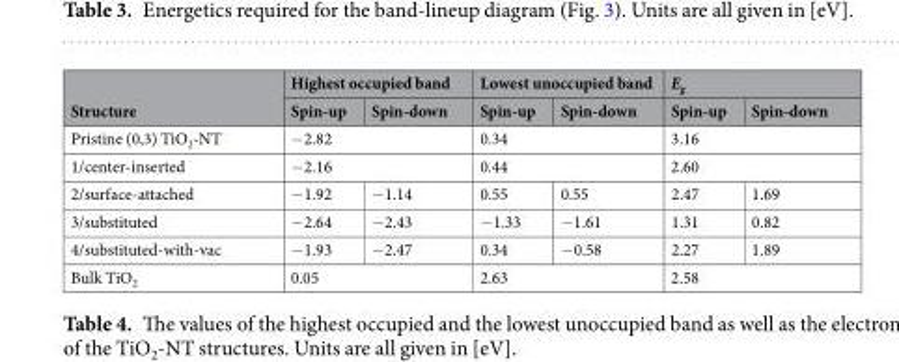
<table><thead><tr><td rowspan="2">Structure</td><td colspan="2">Highest occupied band</td><td colspan="2">Lowest unoccupied band</td><td colspan="2">E<sub>g</sub></td></tr><tr><td>Spin-up</td><td>Spin-down</td><td>Spin-up</td><td>Spin-down</td><td>Spin-up</td><td>Spin-down</td></tr></thead><tbody><tr><td>Pristine (0,3) TiO<sub>2</sub>-NT</td><td colspan="2">−2.82</td><td colspan="2">0.34</td><td colspan="2">3.16</td></tr><tr><td>1/center-inserted</td><td colspan="2">−2.16</td><td colspan="2">0.44</td><td colspan="2">2.60</td></tr><tr><td>2/surface-attached</td><td>−1.92</td><td>−1.14</td><td>0.55</td><td>0.55</td><td>2.47</td><td>1.69</td></tr><tr><td>3/substituted</td><td>−2.64</td><td>−2.43</td><td>−1.33</td><td>−1.61</td><td>1.31</td><td>0.82</td></tr><tr><td>4/substituted-with-vac</td><td>−1.93</td><td>−2.47</td><td>0.34</td><td>−0.58</td><td>2.27</td><td>1.89</td></tr><tr><td>Bulk TiO<sub>2</sub></td><td colspan="2">0.05</td><td colspan="2">2.63</td><td colspan="2">2.58</td></tr></tbody></table>